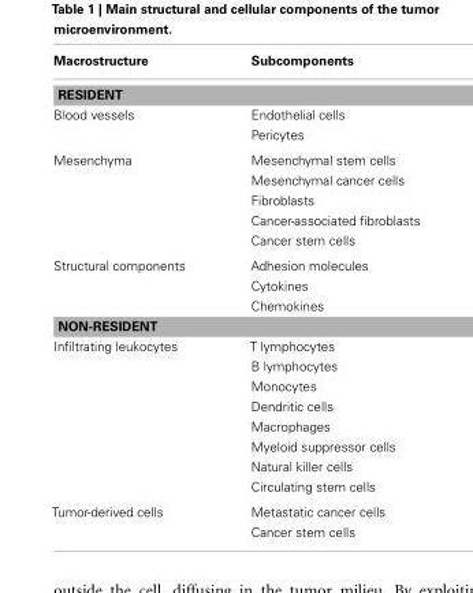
<table><thead><tr><td>Macrostructure</td><td>Subcomponents</td></tr></thead><tbody><tr><td colspan="2">RESIDENT</td></tr><tr><td rowspan="2">Blood vessels</td><td>Endothelial cells</td></tr><tr><td>Pericytes</td></tr><tr><td rowspan="5">Mesenchyma</td><td>Mesenchymal stem cells</td></tr><tr><td>Mesenchymal cancer cells</td></tr><tr><td>Fibroblasts</td></tr><tr><td>Cancer-associated fibroblasts</td></tr><tr><td>Cancer stem cells</td></tr><tr><td rowspan="3">Structural components</td><td>Adhesion molecules</td></tr><tr><td>Cytokines</td></tr><tr><td>Chemokines</td></tr><tr><td colspan="2">NON-RESIDENT</td></tr><tr><td rowspan="8">Infiltrating leukocytes</td><td>T lymphocytes</td></tr><tr><td>B lymphocytes</td></tr><tr><td>Monocytes</td></tr><tr><td>Dendritic cells</td></tr><tr><td>Macrophages</td></tr><tr><td>Myeloid suppressor cells</td></tr><tr><td>Natural killer cells</td></tr><tr><td>Circulating stem cells</td></tr><tr><td rowspan="2">Tumor-derived cells</td><td>Metastatic cancer cells</td></tr><tr><td>Cancer stem cells</td></tr></tbody></table>